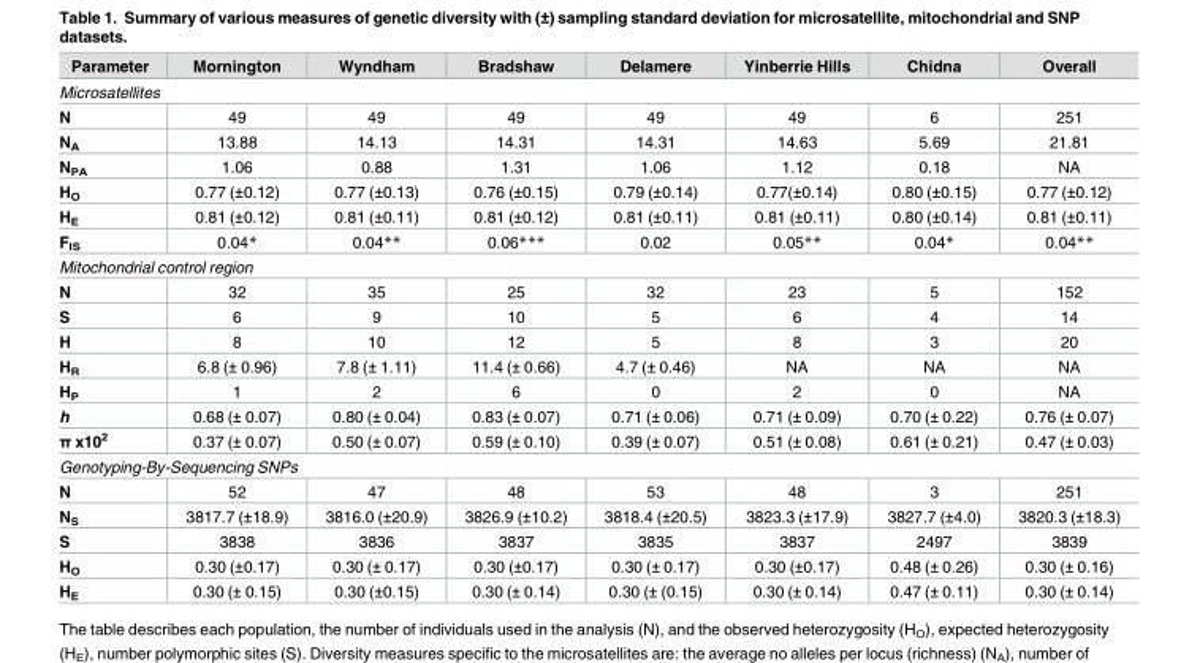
<table><thead><tr><td>Parameter</td><td>Mornington</td><td>Wyndham</td><td>Bradshaw</td><td>Delamere</td><td>Yinberrie Hills</td><td>Chidna</td><td>Overall</td></tr></thead><tbody><tr><td colspan="8">Microsatellites</td></tr><tr><td>N</td><td>49</td><td>49</td><td>49</td><td>49</td><td>49</td><td>6</td><td>251</td></tr><tr><td>N<sub>A</sub></td><td>13.88</td><td>14.13</td><td>14.31</td><td>14.31</td><td>14.63</td><td>5.69</td><td>21.81</td></tr><tr><td>N<sub>PA</sub></td><td>1.06</td><td>0.88</td><td>1.31</td><td>1.06</td><td>1.12</td><td>0.18</td><td>NA</td></tr><tr><td>H<sub>O</sub></td><td>0.77 (±0.12)</td><td>0.77 (±0.13)</td><td>0.76 (±0.15)</td><td>0.79 (±0.14)</td><td>0.77(±0.14)</td><td>0.80 (±0.15)</td><td>0.77 (±0.12)</td></tr><tr><td>H<sub>E</sub></td><td>0.81 (±0.12)</td><td>0.81 (±0.11)</td><td>0.81 (±0.12)</td><td>0.81 (±0.11)</td><td>0.81 (±0.11)</td><td>0.80 (±0.14)</td><td>0.81 (±0.11)</td></tr><tr><td>F<sub>IS</sub></td><td>0.04*</td><td>0.04**</td><td>0.06***</td><td>0.02</td><td>0.05**</td><td>0.04*</td><td>0.04**</td></tr><tr><td colspan="8">Mitochondrial control region</td></tr><tr><td>N</td><td>32</td><td>35</td><td>25</td><td>32</td><td>23</td><td>5</td><td>152</td></tr><tr><td>S</td><td>6</td><td>9</td><td>10</td><td>5</td><td>6</td><td>4</td><td>14</td></tr><tr><td>H</td><td>8</td><td>10</td><td>12</td><td>5</td><td>8</td><td>3</td><td>20</td></tr><tr><td>H<sub>R</sub></td><td>6.8 (± 0.96)</td><td>7.8 (± 1.11)</td><td>11.4 (± 0.66)</td><td>4.7 (± 0.46)</td><td>NA</td><td>NA</td><td>NA</td></tr><tr><td>H<sub>P</sub></td><td>1</td><td>2</td><td>6</td><td>0</td><td>2</td><td>0</td><td>NA</td></tr><tr><td>h</td><td>0.68 (± 0.07)</td><td>0.80 (± 0.04)</td><td>0.83 (± 0.07)</td><td>0.71 (± 0.06)</td><td>0.71 (± 0.09)</td><td>0.70 (± 0.22)</td><td>0.76 (± 0.07)</td></tr><tr><td>π x10<sup>2</sup></td><td>0.37 (± 0.07)</td><td>0.50 (± 0.07)</td><td>0.59 (± 0.10)</td><td>0.39 (± 0.07)</td><td>0.51 (± 0.08)</td><td>0.61 (± 0.21)</td><td>0.47 (± 0.03)</td></tr><tr><td colspan="8">Genotyping-By-Sequencing SNPs</td></tr><tr><td>N</td><td>52</td><td>47</td><td>48</td><td>53</td><td>48</td><td>3</td><td>251</td></tr><tr><td>N<sub>S</sub></td><td>3817.7 (±18.9)</td><td>3816.0 (±20.9)</td><td>3826.9 (±10.2)</td><td>3818.4 (±20.5)</td><td>3823.3 (±17.9)</td><td>3827.7 (±4.0)</td><td>3820.3 (±18.3)</td></tr><tr><td>S</td><td>3838</td><td>3836</td><td>3837</td><td>3835</td><td>3837</td><td>2497</td><td>3839</td></tr><tr><td>H<sub>O</sub></td><td>0.30 (±0.17)</td><td>0.30 (± 0.17)</td><td>0.30 (±0.17)</td><td>0.30 (± 0.17)</td><td>0.30 (±0.17)</td><td>0.48 (± 0.26)</td><td>0.30 (± 0.16)</td></tr><tr><td>H<sub>E</sub></td><td>0.30 (± 0.15)</td><td>0.30 (±0.15)</td><td>0.30 (± 0.14)</td><td>0.30 (± (0.15)</td><td>0.30 (± 0.14)</td><td>0.47 (± 0.11)</td><td>0.30 (± 0.14)</td></tr></tbody></table>